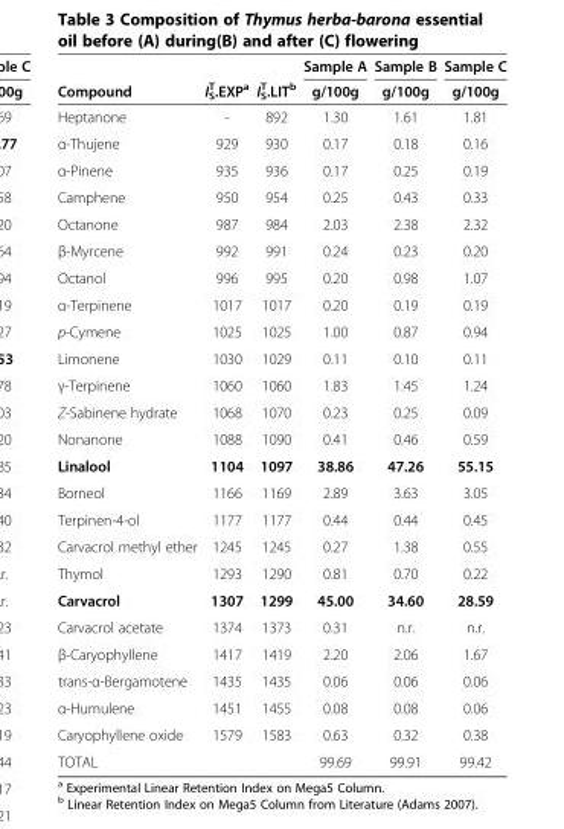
<table><thead><tr><td rowspan="2">Compound</td><td rowspan="2">I<sup>T</sup> <sub>S</sub>.EXP<sup>a</sup></td><td rowspan="2">I<sup>T</sup> <sub>S</sub>.LIT<sup>b</sup></td><td rowspan="2">Sample A g/100g</td><td rowspan="2">Sample B g/100g</td><td rowspan="2">Sample C g/100g</td></tr><tr></tr></thead><tbody><tr><td>Heptanone</td><td>-</td><td>892</td><td>1.30</td><td>1.61</td><td>1.81</td></tr><tr><td>α-Thujene</td><td>929</td><td>930</td><td>0.17</td><td>0.18</td><td>0.16</td></tr><tr><td>α-Pinene</td><td>935</td><td>936</td><td>0.17</td><td>0.25</td><td>0.19</td></tr><tr><td>Camphene</td><td>950</td><td>954</td><td>0.25</td><td>0.43</td><td>0.33</td></tr><tr><td>Octanone</td><td>987</td><td>984</td><td>2.03</td><td>2.38</td><td>2.32</td></tr><tr><td>β-Myrcene</td><td>992</td><td>991</td><td>0.24</td><td>0.23</td><td>0.20</td></tr><tr><td>Octanol</td><td>996</td><td>995</td><td>0.20</td><td>0.98</td><td>1.07</td></tr><tr><td>α-Terpinene</td><td>1017</td><td>1017</td><td>0.20</td><td>0.19</td><td>0.19</td></tr><tr><td>p-Cymene</td><td>1025</td><td>1025</td><td>1.00</td><td>0.87</td><td>0.94</td></tr><tr><td>Limonene</td><td>1030</td><td>1029</td><td>0.11</td><td>0.10</td><td>0.11</td></tr><tr><td>γ-Terpinene</td><td>1060</td><td>1060</td><td>1.83</td><td>1.45</td><td>1.24</td></tr><tr><td>Z-Sabinene hydrate</td><td>1068</td><td>1070</td><td>0.23</td><td>0.25</td><td>0.09</td></tr><tr><td>Nonanone</td><td>1088</td><td>1090</td><td>0.41</td><td>0.46</td><td>0.59</td></tr><tr><td>Linalool</td><td>1104</td><td>1097</td><td>38.86</td><td>47.26</td><td>55.15</td></tr><tr><td>Borneol</td><td>1166</td><td>1169</td><td>2.89</td><td>3.63</td><td>3.05</td></tr><tr><td>Terpinen-4-ol</td><td>1177</td><td>1177</td><td>0.44</td><td>0.44</td><td>0.45</td></tr><tr><td>Carvacrol methyl ether</td><td>1245</td><td>1245</td><td>0.27</td><td>1.38</td><td>0.55</td></tr><tr><td>Thymol</td><td>1293</td><td>1290</td><td>0.81</td><td>0.70</td><td>0.22</td></tr><tr><td>Carvacrol</td><td>1307</td><td>1299</td><td>45.00</td><td>34.60</td><td>28.59</td></tr><tr><td>Carvacrol acetate</td><td>1374</td><td>1373</td><td>0.31</td><td>n.r.</td><td>n.r.</td></tr><tr><td>β-Caryophyllene</td><td>1417</td><td>1419</td><td>2.20</td><td>2.06</td><td>1.67</td></tr><tr><td>trans-α-Bergamotene</td><td>1435</td><td>1435</td><td>0.06</td><td>0.06</td><td>0.06</td></tr><tr><td>α-Humulene</td><td>1451</td><td>1455</td><td>0.08</td><td>0.08</td><td>0.06</td></tr><tr><td>Caryophyllene oxide</td><td>1579</td><td>1583</td><td>0.63</td><td>0.32</td><td>0.38</td></tr><tr><td>TOTAL</td><td></td><td></td><td>99.69</td><td>99.91</td><td>99.42</td></tr></tbody></table>